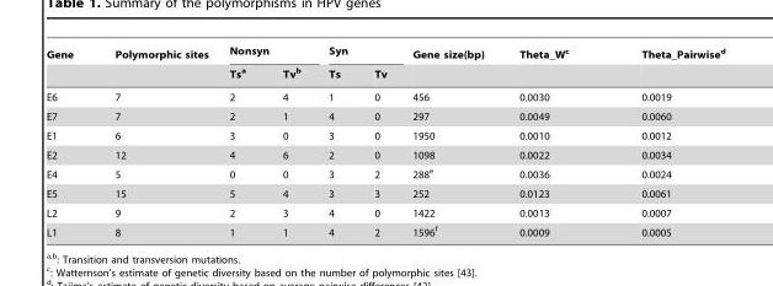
<table><thead><tr><td rowspan="2">Gene</td><td rowspan="2">Polymorphic sites</td><td colspan="2">Nonsyn</td><td colspan="2">Syn</td><td rowspan="2">Gene size(bp)</td><td rowspan="2">Theta_W<sup>c</sup></td><td rowspan="2">Theta_Pairwise<sup>d</sup></td></tr><tr><td>Ts<sup>a</sup></td><td>Tv<sup>b</sup></td><td>Ts</td><td>Tv</td></tr></thead><tbody><tr><td>E6</td><td>7</td><td>2</td><td>4</td><td>1</td><td>0</td><td>456</td><td>0.0030</td><td>0.0019</td></tr><tr><td>E7</td><td>7</td><td>2</td><td>1</td><td>4</td><td>0</td><td>297</td><td>0.0049</td><td>0.0060</td></tr><tr><td>E1</td><td>6</td><td>3</td><td>0</td><td>3</td><td>0</td><td>1950</td><td>0.0010</td><td>0.0012</td></tr><tr><td>E2</td><td>12</td><td>4</td><td>6</td><td>2</td><td>0</td><td>1098</td><td>0.0022</td><td>0.0034</td></tr><tr><td>E4</td><td>5</td><td>0</td><td>0</td><td>3</td><td>2</td><td>288<sup>e</sup></td><td>0.0036</td><td>0.0024</td></tr><tr><td>E5</td><td>15</td><td>5</td><td>4</td><td>3</td><td>3</td><td>252</td><td>0.0123</td><td>0.0061</td></tr><tr><td>L2</td><td>9</td><td>2</td><td>3</td><td>4</td><td>0</td><td>1422</td><td>0.0013</td><td>0.0007</td></tr><tr><td>L1</td><td>8</td><td>1</td><td>1</td><td>4</td><td>2</td><td>1596<sup>f</sup></td><td>0.0009</td><td>0.0005</td></tr></tbody></table>